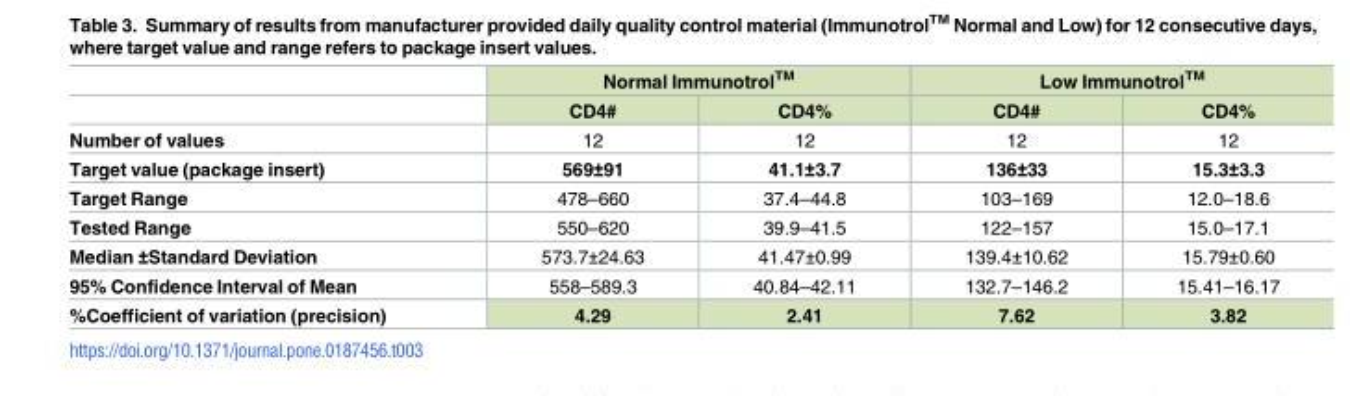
<table><thead><tr><td rowspan="2"></td><td colspan="2">Normal Immunotrol<sup>TM</sup></td><td colspan="2">Low Immunotrol<sup>TM</sup></td></tr><tr><td>CD4#</td><td>CD4%</td><td>CD4#</td><td>CD4%</td></tr></thead><tbody><tr><td>Number of values</td><td>12</td><td>12</td><td>12</td><td>12</td></tr><tr><td>Target value (package insert)</td><td>569±91</td><td>41.1±3.7</td><td>136±33</td><td>15.3±3.3</td></tr><tr><td>Target Range</td><td>478–660</td><td>37.4–44.8</td><td>103–169</td><td>12.0–18.6</td></tr><tr><td>Tested Range</td><td>550–620</td><td>39.9–41.5</td><td>122–157</td><td>15.0–17.1</td></tr><tr><td>Median ±Standard Deviation</td><td>573.7±24.63</td><td>41.47±0.99</td><td>139.4±10.62</td><td>15.79±0.60</td></tr><tr><td>95% Confidence Interval of Mean</td><td>558–589.3</td><td>40.84–42.11</td><td>132.7–146.2</td><td>15.41–16.17</td></tr><tr><td>%Coefficient of variation (precision)</td><td>4.29</td><td>2.41</td><td>7.62</td><td>3.82</td></tr></tbody></table>